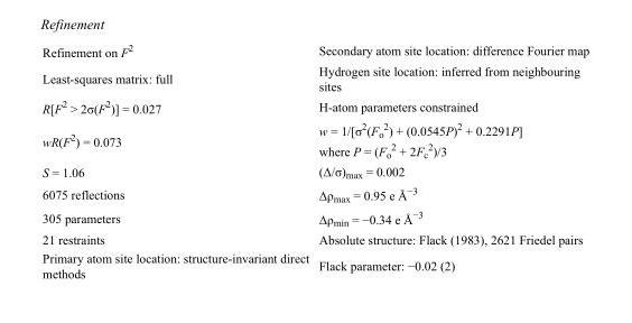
<table><tbody><tr><td>Refinement on F<sup>2</sup></td><td>Secondary atom site location: difference Fourier map</td></tr><tr><td>Least-squares matrix: full</td><td>Hydrogen site location: inferred from neighbouring sites</td></tr><tr><td>R[F<sup>2</sup> &gt; 2σ(F<sup>2</sup>)] = 0.027</td><td>H-atom parameters constrained</td></tr><tr><td>wR(F<sup>2</sup>) = 0.073</td><td>w = 1/[σ<sup>2</sup>(F<sub>o</sub> <sup>2</sup>) + (0.0545P)<sup>2</sup> + 0.2291P] where P = (F<sub>o</sub> <sup>2</sup> + 2F<sub>c</sub> <sup>2</sup>)/3</td></tr><tr><td>S = 1.06</td><td>(Δ/σ)<sub>max</sub> = 0.002</td></tr><tr><td>6075 reflections</td><td>Δρ<sub>max</sub> = 0.95 e Å<sup>−3</sup></td></tr><tr><td>305 parameters</td><td>Δρ<sub>min</sub> = −0.34 e Å<sup>−3</sup></td></tr><tr><td>21 restraints</td><td>Absolute structure: Flack (1983), 2621 Friedel pairs</td></tr><tr><td>Primary atom site location: structure-invariant direct methods</td><td>Flack parameter: −0.02 (2)</td></tr></tbody></table>